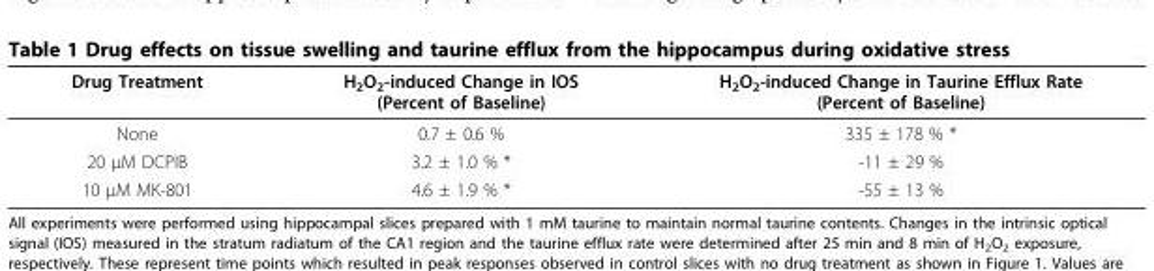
<table><thead><tr><td>Drug Treatment</td><td>H<sub>2</sub>O<sub>2</sub>-induced Change in IOS (Percent of Baseline)</td><td>H<sub>2</sub>O<sub>2</sub>-induced Change in Taurine Efflux Rate (Percent of Baseline)</td></tr></thead><tbody><tr><td>None</td><td>0.7 ± 0.6 %</td><td>335 ± 178 % *</td></tr><tr><td>20 µM DCPIB</td><td>3.2 ± 1.0 % *</td><td>-11 ± 29 %</td></tr><tr><td>10 µM MK-801</td><td>4.6 ± 1.9 % *</td><td>-55 ± 13 %</td></tr></tbody></table>